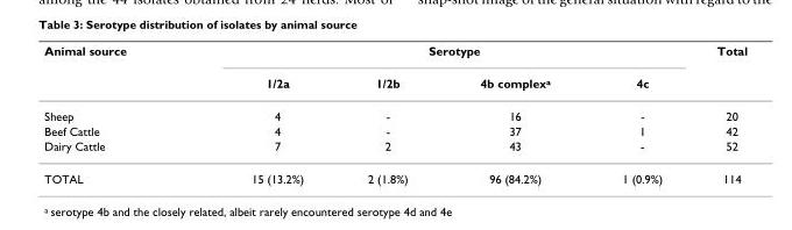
<table><thead><tr><td rowspan="2">Animal source</td><td colspan="4">Serotype</td><td rowspan="2">Total</td></tr><tr><td>1/2a</td><td>1/2b</td><td>4b complex<sup>a</sup></td><td>4c</td></tr></thead><tbody><tr><td>Sheep</td><td>4</td><td>-</td><td>16</td><td>-</td><td>20</td></tr><tr><td>Beef Cattle</td><td>4</td><td>-</td><td>37</td><td>1</td><td>42</td></tr><tr><td>Dairy Cattle</td><td>7</td><td>2</td><td>43</td><td>-</td><td>52</td></tr><tr><td>TOTAL</td><td>15 (13.2%)</td><td>2 (1.8%)</td><td>96 (84.2%)</td><td>1 (0.9%)</td><td>114</td></tr></tbody></table>